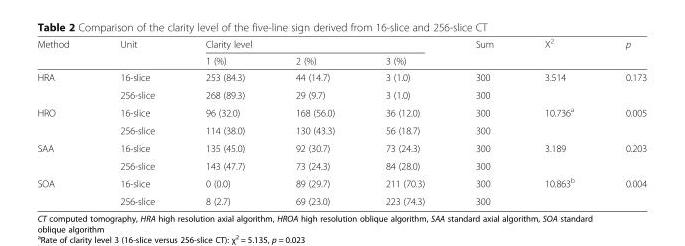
<table><thead><tr><td rowspan="2">Method</td><td rowspan="2">Unit</td><td colspan="3">Clarity level</td><td rowspan="2">Sum</td><td rowspan="2">X<sup>2</sup></td><td rowspan="2">p</td></tr><tr><td>1 (%)</td><td>2 (%)</td><td>3 (%)</td></tr></thead><tbody><tr><td rowspan="2">HRA</td><td>16-slice</td><td>253 (84.3)</td><td>44 (14.7)</td><td>3 (1.0)</td><td>300</td><td rowspan="2">3.514</td><td rowspan="2">0.173</td></tr><tr><td>256-slice</td><td>268 (89.3)</td><td>29 (9.7)</td><td>3 (1.0)</td><td>300</td></tr><tr><td rowspan="2">HRO</td><td>16-slice</td><td>96 (32.0)</td><td>168 (56.0)</td><td>36 (12.0)</td><td>300</td><td rowspan="2">10.736<sup>a</sup></td><td rowspan="2">0.005</td></tr><tr><td>256-slice</td><td>114 (38.0)</td><td>130 (43.3)</td><td>56 (18.7)</td><td>300</td></tr><tr><td rowspan="2">SAA</td><td>16-slice</td><td>135 (45.0)</td><td>92 (30.7)</td><td>73 (24.3)</td><td>300</td><td rowspan="2">3.189</td><td rowspan="2">0.203</td></tr><tr><td>256-slice</td><td>143 (47.7)</td><td>73 (24.3)</td><td>84 (28.0)</td><td>300</td></tr><tr><td rowspan="2">SOA</td><td>16-slice</td><td>0 (0.0)</td><td>89 (29.7)</td><td>211 (70.3)</td><td>300</td><td rowspan="2">10.863<sup>b</sup></td><td rowspan="2">0.004</td></tr><tr><td>256-slice</td><td>8 (2.7)</td><td>69 (23.0)</td><td>223 (74.3)</td><td>300</td></tr></tbody></table>